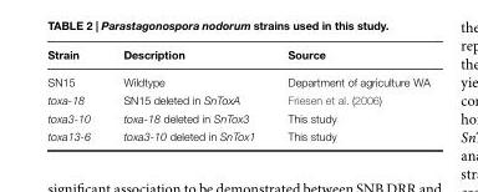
<table><thead><tr><td>Strain</td><td>Description</td><td>Source</td></tr></thead><tbody><tr><td>SN15</td><td>Wildtype</td><td>Department of agriculture WA</td></tr><tr><td>toxa-18</td><td>SN15 deleted in SnToxA</td><td>Friesen et al. (2006)</td></tr><tr><td>toxa3-10</td><td>toxa-18 deleted in SnTox3</td><td>This study</td></tr><tr><td>toxa13-6</td><td>toxa3-10 deleted in SnTox1</td><td>This study</td></tr></tbody></table>